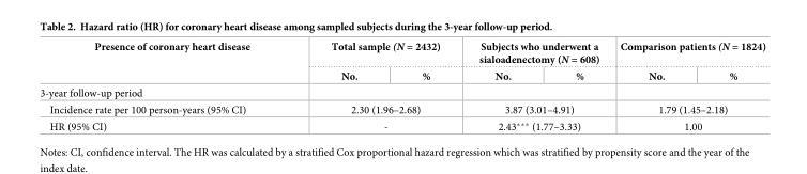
<table><thead><tr><td rowspan="2">Presence of coronary heart disease</td><td colspan="2">Total sample (N = 2432)</td><td colspan="2">Subjects who underwent a sialoadenectomy (N = 608)</td><td colspan="2">Comparison patients (N = 1824)</td></tr><tr><td>No.</td><td>%</td><td>No.</td><td>%</td><td>No.</td><td>%</td></tr></thead><tbody><tr><td colspan="7">3-year follow-up period</td></tr><tr><td>Incidence rate per 100 person-years (95% CI)</td><td colspan="2">2.30 (1.96–2.68)</td><td colspan="2">3.87 (3.01–4.91)</td><td colspan="2">1.79 (1.45–2.18)</td></tr><tr><td>HR (95% CI)</td><td colspan="2">-</td><td colspan="2">2.43*** (1.77–3.33)</td><td colspan="2">1.00</td></tr></tbody></table>